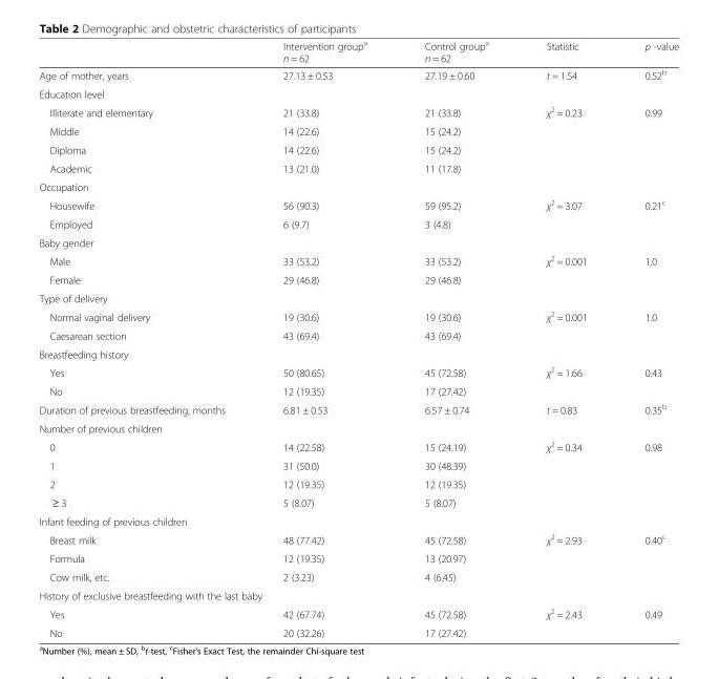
<table><thead><tr><td></td><td>Intervention group<sup>a</sup> n = 62</td><td>Control group<sup>a</sup> n = 62</td><td>Statistic</td><td>p -value</td></tr></thead><tbody><tr><td>Age of mother, years</td><td>27.13 ± 0.53</td><td>27.19 ± 0.60</td><td>t = 1.54</td><td>0.52<sup>b</sup></td></tr><tr><td colspan="5">Education level</td></tr><tr><td>Illiterate and elementary</td><td>21 (33.8)</td><td>21 (33.8)</td><td rowspan="4">χ<sup>2</sup> = 0.23</td><td rowspan="4">0.99</td></tr><tr><td>Middle</td><td>14 (22.6)</td><td>15 (24.2)</td></tr><tr><td>Diploma</td><td>14 (22.6)</td><td>15 (24.2)</td></tr><tr><td>Academic</td><td>13 (21.0)</td><td>11 (17.8)</td></tr><tr><td colspan="5">Occupation</td></tr><tr><td>Housewife</td><td>56 (90.3)</td><td>59 (95.2)</td><td rowspan="2">χ<sup>2</sup> = 3.07</td><td rowspan="2">0.21<sup>c</sup></td></tr><tr><td>Employed</td><td>6 (9.7)</td><td>3 (4.8)</td></tr><tr><td colspan="5">Baby gender</td></tr><tr><td>Male</td><td>33 (53.2)</td><td>33 (53.2)</td><td rowspan="2">χ<sup>2</sup> = 0.001</td><td rowspan="2">1.0</td></tr><tr><td>Female</td><td>29 (46.8)</td><td>29 (46.8)</td></tr><tr><td colspan="5">Type of delivery</td></tr><tr><td>Normal vaginal delivery</td><td>19 (30.6)</td><td>19 (30.6)</td><td rowspan="2">χ<sup>2</sup> = 0.001</td><td rowspan="2">1.0</td></tr><tr><td>Caesarean section</td><td>43 (69.4)</td><td>43 (69.4)</td></tr><tr><td colspan="5">Breastfeeding history</td></tr><tr><td>Yes</td><td>50 (80.65)</td><td>45 (72.58)</td><td>χ<sup>2</sup> = 1.66</td><td>0.43</td></tr><tr><td>No</td><td>12 (19.35)</td><td>17 (27.42)</td><td></td><td></td></tr><tr><td>Duration of previous breastfeeding, months</td><td>6.81 ± 0.53</td><td>6.57 ± 0.74</td><td>t = 0.83</td><td>0.35<sup>b</sup></td></tr><tr><td colspan="5">Number of previous children</td></tr><tr><td>0</td><td>14 (22.58)</td><td>15 (24.19)</td><td rowspan="4">χ<sup>2</sup> = 0.34</td><td rowspan="4">0.98</td></tr><tr><td>1</td><td>31 (50.0)</td><td>30 (48.39)</td></tr><tr><td>2</td><td>12 (19.35)</td><td>12 (19.35)</td></tr><tr><td>≥ 3</td><td>5 (8.07)</td><td>5 (8.07)</td></tr><tr><td colspan="5">Infant feeding of previous children</td></tr><tr><td>Breast milk</td><td>48 (77.42)</td><td>45 (72.58)</td><td rowspan="3">χ<sup>2</sup> = 2.93</td><td rowspan="3">0.40<sup>c</sup></td></tr><tr><td>Formula</td><td>12 (19.35)</td><td>13 (20.97)</td></tr><tr><td>Cow milk, etc.</td><td>2 (3.23)</td><td>4 (6.45)</td></tr><tr><td colspan="5">History of exclusive breastfeeding with the last baby</td></tr><tr><td>Yes</td><td>42 (67.74)</td><td>45 (72.58)</td><td rowspan="2">χ<sup>2</sup> = 2.43</td><td rowspan="2">0.49</td></tr><tr><td>No</td><td>20 (32.26)</td><td>17 (27.42)</td></tr></tbody></table>